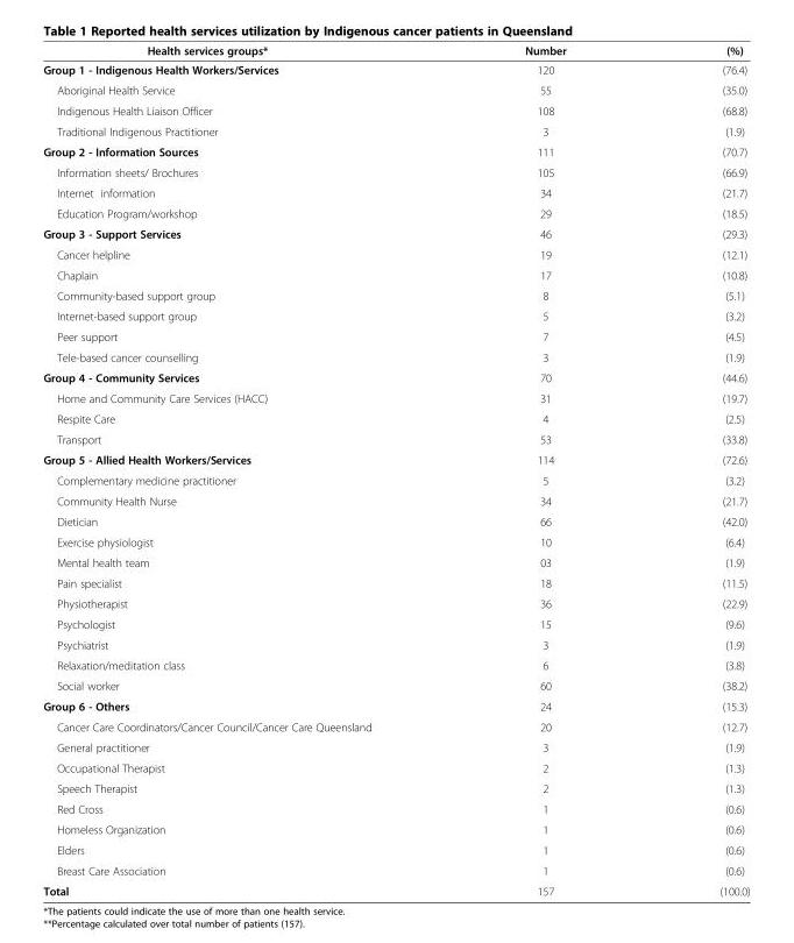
<table><thead><tr><td>Health services groups*</td><td>Number</td><td>(%)</td></tr></thead><tbody><tr><td>Group 1 - Indigenous Health Workers/Services</td><td>120</td><td>(76.4)</td></tr><tr><td>Aboriginal Health Service</td><td>55</td><td>(35.0)</td></tr><tr><td>Indigenous Health Liaison Officer</td><td>108</td><td>(68.8)</td></tr><tr><td>Traditional Indigenous Practitioner</td><td>3</td><td>(1.9)</td></tr><tr><td>Group 2 - Information Sources</td><td>111</td><td>(70.7)</td></tr><tr><td>Information sheets/ Brochures</td><td>105</td><td>(66.9)</td></tr><tr><td>Internet information</td><td>34</td><td>(21.7)</td></tr><tr><td>Education Program/workshop</td><td>29</td><td>(18.5)</td></tr><tr><td>Group 3 - Support Services</td><td>46</td><td>(29.3)</td></tr><tr><td>Cancer helpline</td><td>19</td><td>(12.1)</td></tr><tr><td>Chaplain</td><td>17</td><td>(10.8)</td></tr><tr><td>Community-based support group</td><td>8</td><td>(5.1)</td></tr><tr><td>Internet-based support group</td><td>5</td><td>(3.2)</td></tr><tr><td>Peer support</td><td>7</td><td>(4.5)</td></tr><tr><td>Tele-based cancer counselling</td><td>3</td><td>(1.9)</td></tr><tr><td>Group 4 - Community Services</td><td>70</td><td>(44.6)</td></tr><tr><td>Home and Community Care Services (HACC)</td><td>31</td><td>(19.7)</td></tr><tr><td>Respite Care</td><td>4</td><td>(2.5)</td></tr><tr><td>Transport</td><td>53</td><td>(33.8)</td></tr><tr><td>Group 5 - Allied Health Workers/Services</td><td>114</td><td>(72.6)</td></tr><tr><td>Complementary medicine practitioner</td><td>5</td><td>(3.2)</td></tr><tr><td>Community Health Nurse</td><td>34</td><td>(21.7)</td></tr><tr><td>Dietician</td><td>66</td><td>(42.0)</td></tr><tr><td>Exercise physiologist</td><td>10</td><td>(6.4)</td></tr><tr><td>Mental health team</td><td>03</td><td>(1.9)</td></tr><tr><td>Pain specialist</td><td>18</td><td>(11.5)</td></tr><tr><td>Physiotherapist</td><td>36</td><td>(22.9)</td></tr><tr><td>Psychologist</td><td>15</td><td>(9.6)</td></tr><tr><td>Psychiatrist</td><td>3</td><td>(1.9)</td></tr><tr><td>Relaxation/meditation class</td><td>6</td><td>(3.8)</td></tr><tr><td>Social worker</td><td>60</td><td>(38.2)</td></tr><tr><td>Group 6 - Others</td><td>24</td><td>(15.3)</td></tr><tr><td>Cancer Care Coordinators/Cancer Council/Cancer Care Queensland</td><td>20</td><td>(12.7)</td></tr><tr><td>General practitioner</td><td>3</td><td>(1.9)</td></tr><tr><td>Occupational Therapist</td><td>2</td><td>(1.3)</td></tr><tr><td>Speech Therapist</td><td>2</td><td>(1.3)</td></tr><tr><td>Red Cross</td><td>1</td><td>(0.6)</td></tr><tr><td>Homeless Organization</td><td>1</td><td>(0.6)</td></tr><tr><td>Elders</td><td>1</td><td>(0.6)</td></tr><tr><td>Breast Care Association</td><td>1</td><td>(0.6)</td></tr><tr><td>Total</td><td>157</td><td>(100.0)</td></tr></tbody></table>